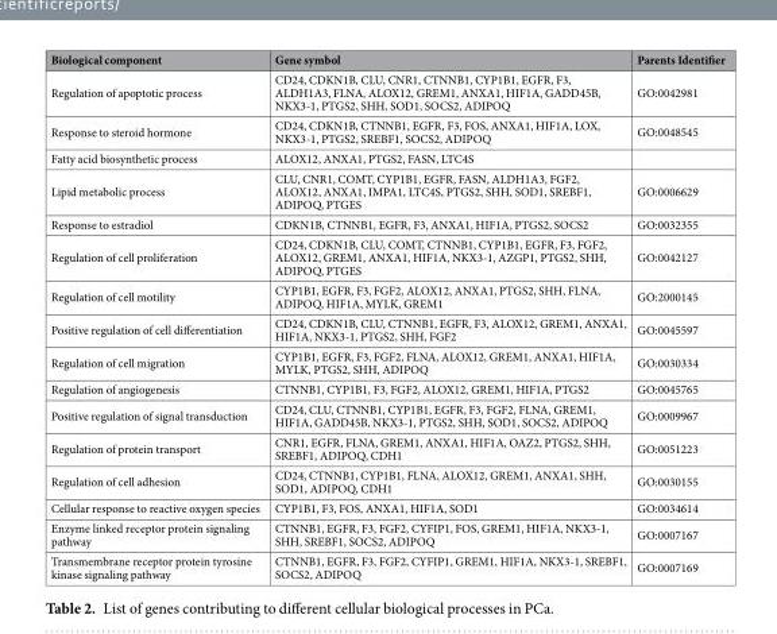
<table><thead><tr><td>Biological component</td><td>Gene symbol</td><td>Parents Identifier</td></tr></thead><tbody><tr><td>Regulation of apoptotic process</td><td>CD24, CDKN1B, CLU, CNR1, CTNNB1, CYP1B1, EGFR, F3, ALDH1A3, FLNA, ALOX12, GREM1, ANXA1, HIF1A, GADD45B, NKX3-1, PTGS2, SHH, SOD1, SOCS2, ADIPOQ</td><td>GO:0042981</td></tr><tr><td>Response to steroid hormone</td><td>CD24, CDKN1B, CTNNB1, EGFR, F3, FOS, ANXA1, HIF1A, LOX, NKX3-1, PTGS2, SREBF1, SOCS2, ADIPOQ</td><td>GO:0048545</td></tr><tr><td>Fatty acid biosynthetic process</td><td>ALOX12, ANXA1, PTGS2, FASN, LTC4S</td><td></td></tr><tr><td>Lipid metabolic process</td><td>CLU, CNR1, COMT, CYP1B1, EGFR, FASN, ALDH1A3, FGF2, ALOX12, ANXA1, IMPA1, LTC4S, PTGS2, SHH, SOD1, SREBF1, ADIPOQ, PTGES</td><td>GO:0006629</td></tr><tr><td>Response to estradiol</td><td>CDKN1B, CTNNB1, EGFR, F3, ANXA1, HIF1A, PTGS2, SOCS2</td><td>GO:0032355</td></tr><tr><td>Regulation of cell proliferation</td><td>CD24, CDKN1B, CLU, COMT, CTNNB1, CYP1B1, EGFR, F3, FGF2, ALOX12, GREM1, ANXA1, HIF1A, NKX3-1, AZGP1, PTGS2, SHH, ADIPOQ, PTGES</td><td>GO:0042127</td></tr><tr><td>Regulation of cell motility</td><td>CYP1B1, EGFR, F3, FGF2, ALOX12, ANXA1, PTGS2, SHH, FLNA, ADIPOQ, HIF1A, MYLK, GREM1</td><td>GO:2000145</td></tr><tr><td>Positive regulation of cell differentiation</td><td>CD24, CDKN1B, CLU, CTNNB1, EGFR, F3, ALOX12, GREM1, ANXA1, HIF1A, NKX3-1, PTGS2, SHH, FGF2</td><td>GO:0045597</td></tr><tr><td>Regulation of cell migration</td><td>CYP1B1, EGFR, F3, FGF2, FLNA, ALOX12, GREM1, ANXA1, HIF1A, MYLK, PTGS2, SHH, ADIPOQ</td><td>GO:0030334</td></tr><tr><td>Regulation of angiogenesis</td><td>CTNNB1, CYP1B1, F3, FGF2, ALOX12, GREM1, HIF1A, PTGS2</td><td>GO:0045765</td></tr><tr><td>Positive regulation of signal transduction</td><td>CD24, CLU, CTNNB1, CYP1B1, EGFR, F3, FGF2, FLNA, GREM1, HIF1A, GADD45B, NKX3-1, PTGS2, SHH, SOD1, SOCS2, ADIPOQ</td><td>GO:0009967</td></tr><tr><td>Regulation of protein transport</td><td>CNR1, EGFR, FLNA, GREM1, ANXA1, HIF1A, OAZ2, PTGS2, SHH, SREBF1, ADIPOQ, CDH1</td><td>GO:0051223</td></tr><tr><td>Regulation of cell adhesion</td><td>CD24, CTNNB1, CYP1B1, FLNA, ALOX12, GREM1, ANXA1, SHH, SOD1, ADIPOQ, CDH1</td><td>GO:0030155</td></tr><tr><td>Cellular response to reactive oxygen species</td><td>CYP1B1, F3, FOS, ANXA1, HIF1A, SOD1</td><td>GO:0034614</td></tr><tr><td>Enzyme linked receptor protein signaling pathway</td><td>CTNNB1, EGFR, F3, FGF2, CYFIP1, FOS, GREM1, HIF1A, NKX3-1, SHH, SREBF1, SOCS2, ADIPOQ</td><td>GO:0007167</td></tr><tr><td>Transmembrane receptor protein tyrosine kinase signaling pathway</td><td>CTNNB1, EGFR, F3, FGF2, CYFIP1, GREM1, HIF1A, NKX3-1, SREBF1, SOCS2, ADIPOQ</td><td>GO:0007169</td></tr></tbody></table>